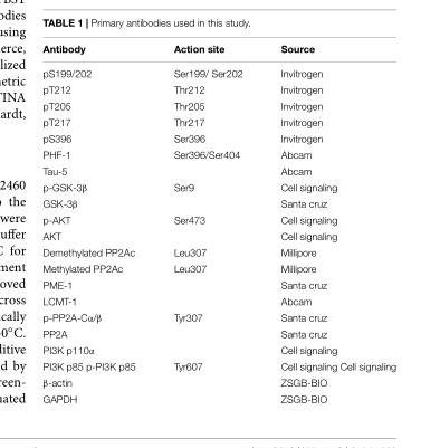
<table><thead><tr><td>Antibody</td><td>Action site</td><td>Source</td></tr></thead><tbody><tr><td>pS199/202</td><td>Ser199/ Ser202</td><td>Invitrogen</td></tr><tr><td>pT212</td><td>Thr212</td><td>Invitrogen</td></tr><tr><td>pT205</td><td>Thr205</td><td>Invitrogen</td></tr><tr><td>pT217</td><td>Thr217</td><td>Invitrogen</td></tr><tr><td>pS396</td><td>Ser396</td><td>Invitrogen</td></tr><tr><td>PHF-1</td><td>Ser396/Ser404</td><td>Abcam</td></tr><tr><td>Tau-5</td><td></td><td>Abcam</td></tr><tr><td>p-GSK-3β</td><td>Ser9</td><td>Cell signaling</td></tr><tr><td>GSK-3β</td><td></td><td>Santa cruz</td></tr><tr><td>p-AKT</td><td>Ser473</td><td>Cell signaling</td></tr><tr><td>AKT</td><td></td><td>Cell signaling</td></tr><tr><td>Demethylated PP2Ac</td><td>Leu307</td><td>Millipore</td></tr><tr><td>Methylated PP2Ac</td><td>Leu307</td><td>Millipore</td></tr><tr><td>PME-1</td><td></td><td>Santa cruz</td></tr><tr><td>LCMT-1</td><td></td><td>Abcam</td></tr><tr><td>p-PP2A-Cα/β</td><td>Tyr307</td><td>Santa cruz</td></tr><tr><td>PP2A</td><td></td><td>Santa cruz</td></tr><tr><td>PI3K p110α</td><td></td><td>Cell signaling</td></tr><tr><td>PI3K p85 p-PI3K p85</td><td>Tyr607</td><td>Cell signaling Cell signaling</td></tr><tr><td>β-actin</td><td></td><td>ZSGB-BIO</td></tr><tr><td>GAPDH</td><td></td><td>ZSGB-BIO</td></tr></tbody></table>